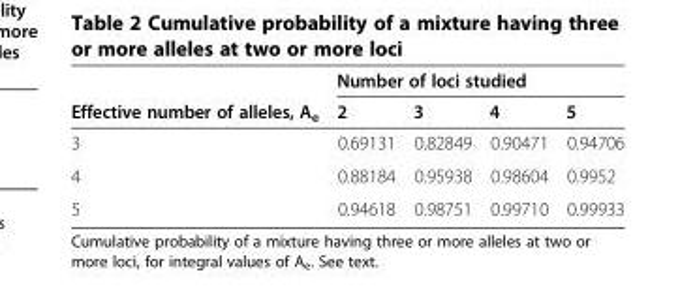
<table><thead><tr><td rowspan="2">Effective number of alleles, A<sub>e</sub></td><td colspan="4">Number of loci studied</td></tr><tr><td>2</td><td>3</td><td>4</td><td>5</td></tr></thead><tbody><tr><td>3</td><td>0.69131</td><td>0.82849</td><td>0.90471</td><td>0.94706</td></tr><tr><td>4</td><td>0.88184</td><td>0.95938</td><td>0.98604</td><td>0.9952</td></tr><tr><td>5</td><td>0.94618</td><td>0.98751</td><td>0.99710</td><td>0.99933</td></tr></tbody></table>